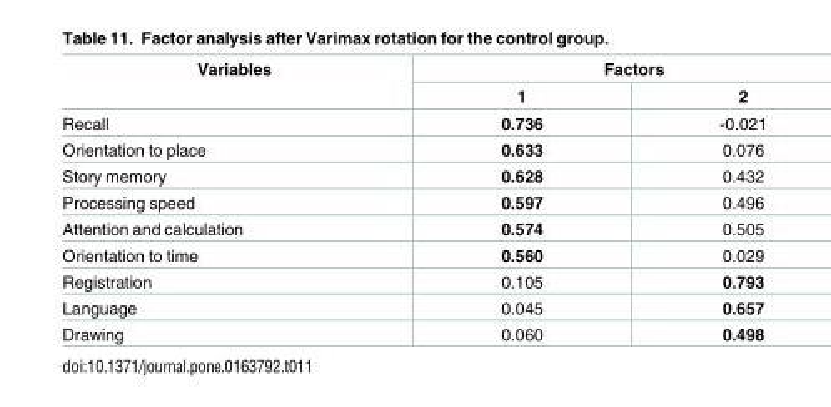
<table><thead><tr><td rowspan="2">Variables</td><td colspan="2">Factors</td></tr><tr><td>1</td><td>2</td></tr></thead><tbody><tr><td>Recall</td><td>0.736</td><td>-0.021</td></tr><tr><td>Orientation to place</td><td>0.633</td><td>0.076</td></tr><tr><td>Story memory</td><td>0.628</td><td>0.432</td></tr><tr><td>Processing speed</td><td>0.597</td><td>0.496</td></tr><tr><td>Attention and calculation</td><td>0.574</td><td>0.505</td></tr><tr><td>Orientation to time</td><td>0.560</td><td>0.029</td></tr><tr><td>Registration</td><td>0.105</td><td>0.793</td></tr><tr><td>Language</td><td>0.045</td><td>0.657</td></tr><tr><td>Drawing</td><td>0.060</td><td>0.498</td></tr></tbody></table>